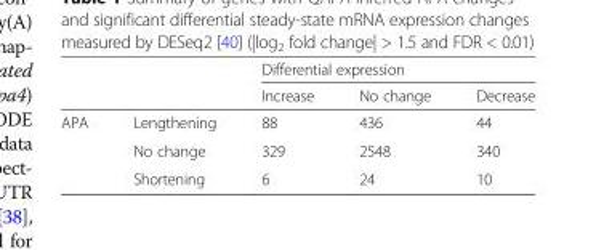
<table><thead><tr><td rowspan="2"></td><td rowspan="2"></td><td colspan="3">Differential expression</td></tr><tr><td>Increase</td><td>No change</td><td>Decrease</td></tr></thead><tbody><tr><td rowspan="3">APA</td><td>Lengthening</td><td>88</td><td>436</td><td>44</td></tr><tr><td>No change</td><td>329</td><td>2548</td><td>340</td></tr><tr><td>Shortening</td><td>6</td><td>24</td><td>10</td></tr></tbody></table>